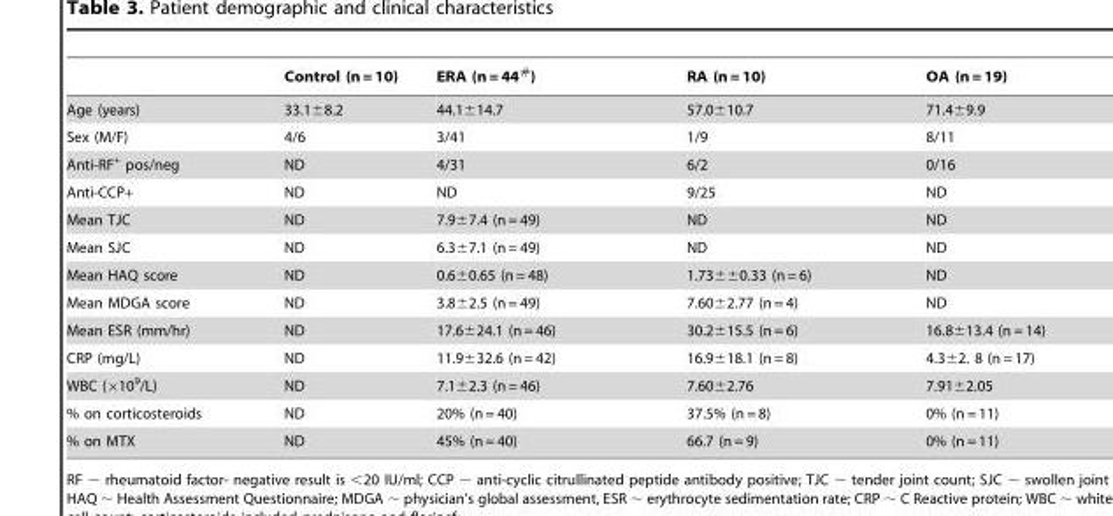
<table><thead><tr><td></td><td>Control (n = 10)</td><td>ERA (n = 44#)</td><td>RA (n = 10)</td><td>OA (n = 19)</td></tr></thead><tbody><tr><td>Age (years)</td><td>33.1±8.2</td><td>44.1±14.7</td><td>57.0±10.7</td><td>71.4±9.9</td></tr><tr><td>Sex (M/F)</td><td>4/6</td><td>3/41</td><td>1/9</td><td>8/11</td></tr><tr><td>Anti-RF<sup>+</sup> pos/neg</td><td>ND</td><td>4/31</td><td>6/2</td><td>0/16</td></tr><tr><td>Anti-CCP+</td><td>ND</td><td>ND</td><td>9/25</td><td>ND</td></tr><tr><td>Mean TJC</td><td>ND</td><td>7.9±7.4 (n = 49)</td><td>ND</td><td>ND</td></tr><tr><td>Mean SJC</td><td>ND</td><td>6.3±7.1 (n = 49)</td><td>ND</td><td>ND</td></tr><tr><td>Mean HAQ score</td><td>ND</td><td>0.6±0.65 (n = 48)</td><td>1.73±±0.33 (n = 6)</td><td>ND</td></tr><tr><td>Mean MDGA score</td><td>ND</td><td>3.8±2.5 (n = 49)</td><td>7.60±2.77 (n = 4)</td><td>ND</td></tr><tr><td>Mean ESR (mm/hr)</td><td>ND</td><td>17.6±24.1 (n = 46)</td><td>30.2±15.5 (n = 6)</td><td>16.8±13.4 (n = 14)</td></tr><tr><td>CRP (mg/L)</td><td>ND</td><td>11.9±32.6 (n = 42)</td><td>16.9±18.1 (n = 8)</td><td>4.3±2. 8 (n = 17)</td></tr><tr><td>WBC (×10<sup>9</sup>/L)</td><td>ND</td><td>7.1±2.3 (n = 46)</td><td>7.60±2.76</td><td>7.91±2.05</td></tr><tr><td>% on corticosteroids</td><td>ND</td><td>20% (n = 40)</td><td>37.5% (n = 8)</td><td>0% (n = 11)</td></tr><tr><td>% on MTX</td><td>ND</td><td>45% (n = 40)</td><td>66.7 (n = 9)</td><td>0% (n = 11)</td></tr></tbody></table>